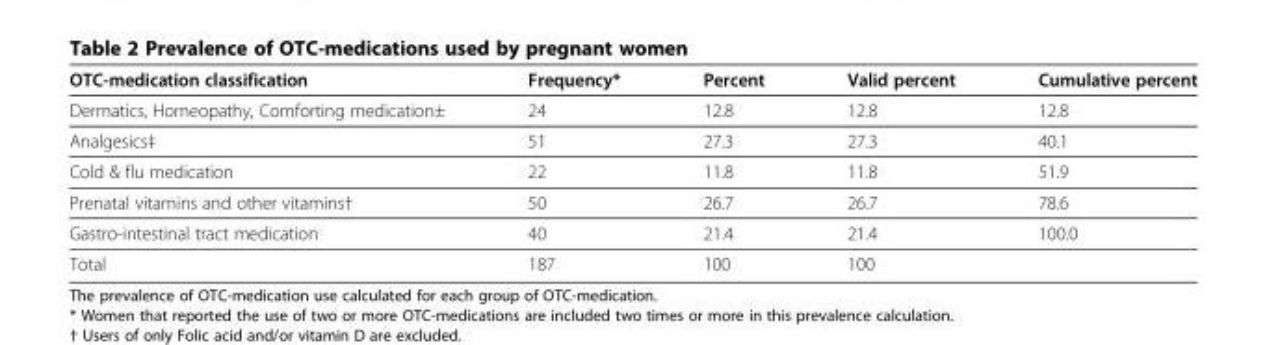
<table><thead><tr><td>OTC-medication classification</td><td>Frequency*</td><td>Percent</td><td>Valid percent</td><td>Cumulative percent</td></tr></thead><tbody><tr><td>Dermatics, Homeopathy, Comforting medication±</td><td>24</td><td>12.8</td><td>12.8</td><td>12.8</td></tr><tr><td>Analgesics‡</td><td>51</td><td>27.3</td><td>27.3</td><td>40.1</td></tr><tr><td>Cold &amp; flu medication</td><td>22</td><td>11.8</td><td>11.8</td><td>51.9</td></tr><tr><td>Prenatal vitamins and other vitamins†</td><td>50</td><td>26.7</td><td>26.7</td><td>78.6</td></tr><tr><td>Gastro-intestinal tract medication</td><td>40</td><td>21.4</td><td>21.4</td><td>100.0</td></tr><tr><td>Total</td><td>187</td><td>100</td><td>100</td><td></td></tr></tbody></table>